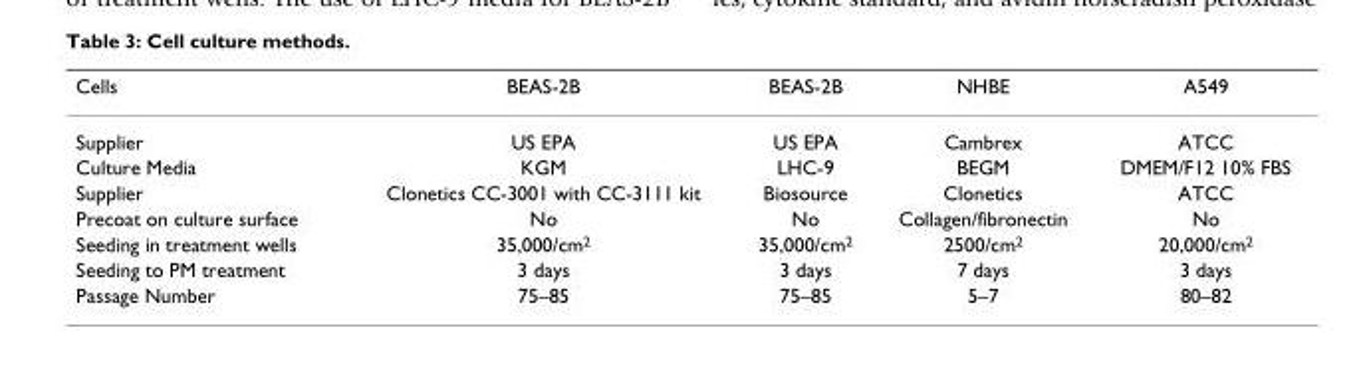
<table><thead><tr><td>Cells</td><td>BEAS-2B</td><td>BEAS-2B</td><td>NHBE</td><td>A549</td></tr></thead><tbody><tr><td>Supplier</td><td>US EPA</td><td>US EPA</td><td>Cambrex</td><td>ATCC</td></tr><tr><td>Culture Media</td><td>KGM</td><td>LHC-9</td><td>BEGM</td><td>DMEM/F12 10% FBS</td></tr><tr><td>Supplier</td><td>Clonetics CC-3001 with CC-3111 kit</td><td>Biosource</td><td>Clonetics</td><td>ATCC</td></tr><tr><td>Precoat on culture surface</td><td>No</td><td>No</td><td>Collagen/fibronectin</td><td>No</td></tr><tr><td>Seeding in treatment wells</td><td>35,000/cm<sup>2</sup></td><td>35,000/cm<sup>2</sup></td><td>2500/cm<sup>2</sup></td><td>20,000/cm<sup>2</sup></td></tr><tr><td>Seeding to PM treatment</td><td>3 days</td><td>3 days</td><td>7 days</td><td>3 days</td></tr><tr><td>Passage Number</td><td>75–85</td><td>75–85</td><td>5–7</td><td>80–82</td></tr></tbody></table>